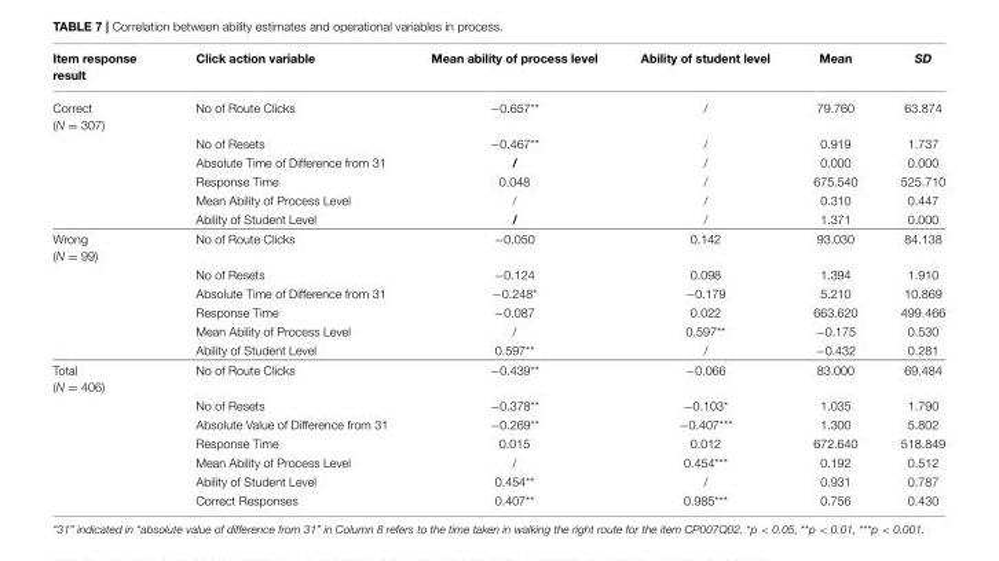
<table><thead><tr><td>Item response result</td><td>Click action variable</td><td>Mean ability of process level</td><td>Ability of student level</td><td>Mean</td><td>SD</td></tr></thead><tbody><tr><td rowspan="6">Correct (N = 307)</td><td>No of Route Clicks</td><td>−0.657**</td><td>/</td><td>79.760</td><td>63.874</td></tr><tr><td>No of Resets</td><td>−0.467**</td><td>/</td><td>0.919</td><td>1.737</td></tr><tr><td>Absolute Time of Difference from 31</td><td>/</td><td>/</td><td>0.000</td><td>0.000</td></tr><tr><td>Response Time</td><td>0.048</td><td>/</td><td>675.540</td><td>525.710</td></tr><tr><td>Mean Ability of Process Level</td><td>/</td><td>/</td><td>0.310</td><td>0.447</td></tr><tr><td>Ability of Student Level</td><td>/</td><td>/</td><td>1.371</td><td>0.000</td></tr><tr><td rowspan="6">Wrong (N = 99)</td><td>No of Route Clicks</td><td>−0.050</td><td>0.142</td><td>93.030</td><td>84.138</td></tr><tr><td>No of Resets</td><td>−0.124</td><td>0.098</td><td>1.394</td><td>1.910</td></tr><tr><td>Absolute Time of Difference from 31</td><td>−0.248*</td><td>−0.179</td><td>5.210</td><td>10.869</td></tr><tr><td>Response Time</td><td>−0.087</td><td>0.022</td><td>663.620</td><td>499.466</td></tr><tr><td>Mean Ability of Process Level</td><td>/</td><td>0.597**</td><td>−0.175</td><td>0.530</td></tr><tr><td>Ability of Student Level</td><td>0.597**</td><td>/</td><td>−0.432</td><td>0.281</td></tr><tr><td rowspan="7">Total (N = 406)</td><td>No of Route Clicks</td><td>−0.439**</td><td>−0.066</td><td>83.000</td><td>69.484</td></tr><tr><td>No of Resets</td><td>−0.378**</td><td>−0.103*</td><td>1.035</td><td>1.790</td></tr><tr><td>Absolute Value of Difference from 31</td><td>−0.269**</td><td>−0.407***</td><td>1.300</td><td>5.802</td></tr><tr><td>Response Time</td><td>0.015</td><td>0.012</td><td>672.640</td><td>518.849</td></tr><tr><td>Mean Ability of Process Level</td><td>/</td><td>0.454***</td><td>0.192</td><td>0.512</td></tr><tr><td>Ability of Student Level</td><td>0.454**</td><td>/</td><td>0.931</td><td>0.787</td></tr><tr><td>Correct Responses</td><td>0.407**</td><td>0.985***</td><td>0.756</td><td>0.430</td></tr></tbody></table>